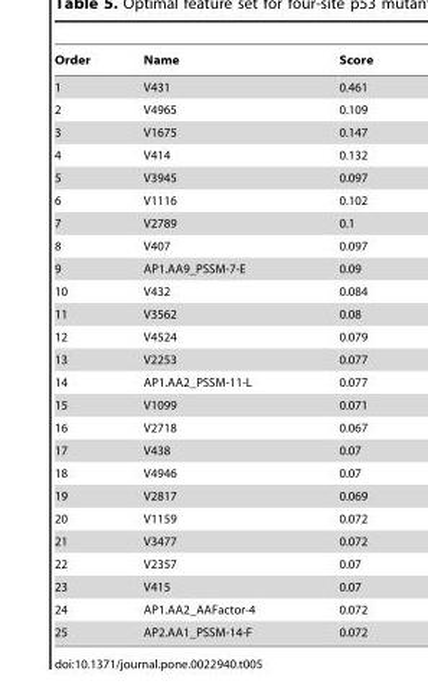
<table><thead><tr><td>Order</td><td>Name</td><td>Score</td></tr></thead><tbody><tr><td>1</td><td>V431</td><td>0.461</td></tr><tr><td>2</td><td>V4965</td><td>0.109</td></tr><tr><td>3</td><td>V1675</td><td>0.147</td></tr><tr><td>4</td><td>V414</td><td>0.132</td></tr><tr><td>5</td><td>V3945</td><td>0.097</td></tr><tr><td>6</td><td>V1116</td><td>0.102</td></tr><tr><td>7</td><td>V2789</td><td>0.1</td></tr><tr><td>8</td><td>V407</td><td>0.097</td></tr><tr><td>9</td><td>AP1.AA9_PSSM-7-E</td><td>0.09</td></tr><tr><td>10</td><td>V432</td><td>0.084</td></tr><tr><td>11</td><td>V3562</td><td>0.08</td></tr><tr><td>12</td><td>V4524</td><td>0.079</td></tr><tr><td>13</td><td>V2253</td><td>0.077</td></tr><tr><td>14</td><td>AP1.AA2_PSSM-11-L</td><td>0.077</td></tr><tr><td>15</td><td>V1099</td><td>0.071</td></tr><tr><td>16</td><td>V2718</td><td>0.067</td></tr><tr><td>17</td><td>V438</td><td>0.07</td></tr><tr><td>18</td><td>V4946</td><td>0.07</td></tr><tr><td>19</td><td>V2817</td><td>0.069</td></tr><tr><td>20</td><td>V1159</td><td>0.072</td></tr><tr><td>21</td><td>V3477</td><td>0.072</td></tr><tr><td>22</td><td>V2357</td><td>0.07</td></tr><tr><td>23</td><td>V415</td><td>0.07</td></tr><tr><td>24</td><td>AP1.AA2_AAFactor-4</td><td>0.072</td></tr><tr><td>25</td><td>AP2.AA1_PSSM-14-F</td><td>0.072</td></tr></tbody></table>